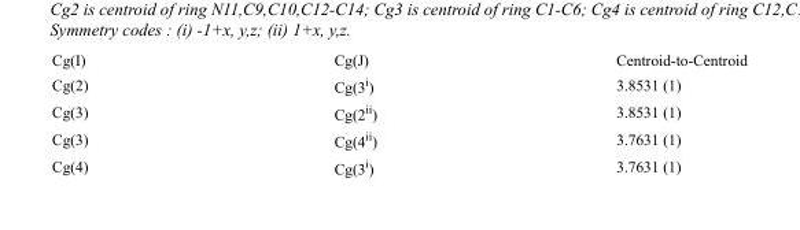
<table><tbody><tr><td>Cg(I)</td><td>Cg(J)</td><td>Centroid-to-Centroid</td></tr><tr><td>Cg(2)</td><td>Cg(3<sup>i</sup>)</td><td>3.8531 (1)</td></tr><tr><td>Cg(3)</td><td>Cg(2<sup>ii</sup>)</td><td>3.8531 (1)</td></tr><tr><td>Cg(3)</td><td>Cg(4<sup>ii</sup>)</td><td>3.7631 (1)</td></tr><tr><td>Cg(4)</td><td>Cg(3<sup>i</sup>)</td><td>3.7631 (1)</td></tr></tbody></table>